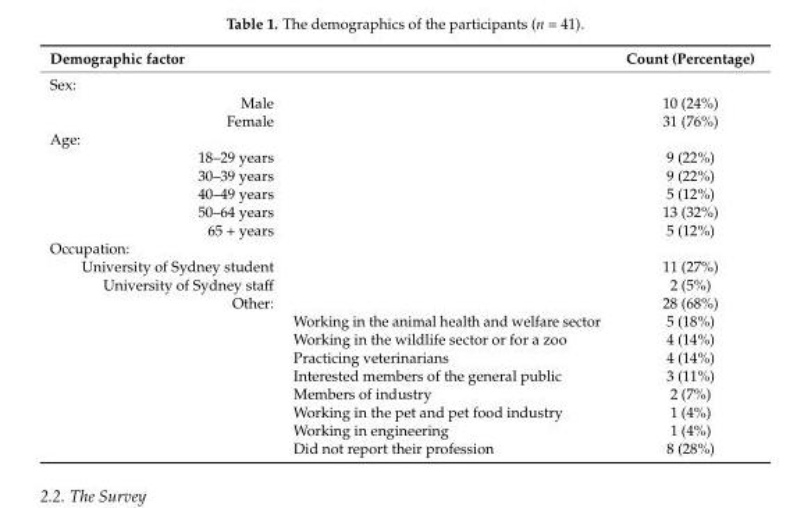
<table><thead><tr><td>Demographic factor</td><td></td><td>Count (Percentage)</td></tr></thead><tbody><tr><td colspan="3">Sex:</td></tr><tr><td>Male</td><td></td><td>10 (24%)</td></tr><tr><td>Female</td><td></td><td>31 (76%)</td></tr><tr><td colspan="3">Age:</td></tr><tr><td>18–29 years</td><td></td><td>9 (22%)</td></tr><tr><td>30–39 years</td><td></td><td>9 (22%)</td></tr><tr><td>40–49 years</td><td></td><td>5 (12%)</td></tr><tr><td>50–64 years</td><td></td><td>13 (32%)</td></tr><tr><td>65 + years</td><td></td><td>5 (12%)</td></tr><tr><td colspan="3">Occupation:</td></tr><tr><td>University of Sydney student</td><td></td><td>11 (27%)</td></tr><tr><td>University of Sydney staff</td><td></td><td>2 (5%)</td></tr><tr><td rowspan="9">Other:</td><td></td><td>28 (68%)</td></tr><tr><td>Working in the animal health and welfare sector</td><td>5 (18%)</td></tr><tr><td>Working in the wildlife sector or for a zoo</td><td>4 (14%)</td></tr><tr><td>Practicing veterinarians</td><td>4 (14%)</td></tr><tr><td>Interested members of the general public</td><td>3 (11%)</td></tr><tr><td>Members of industry</td><td>2 (7%)</td></tr><tr><td>Working in the pet and pet food industry</td><td>1 (4%)</td></tr><tr><td>Working in engineering</td><td>1 (4%)</td></tr><tr><td>Did not report their profession</td><td>8 (28%)</td></tr></tbody></table>